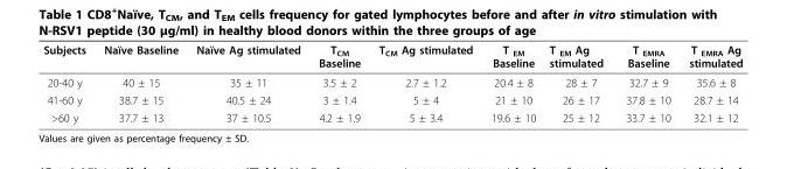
<table><thead><tr><td>Subjects</td><td>Naïve Baseline</td><td>Naïve Ag stimulated</td><td>T<sub>CM</sub> Baseline</td><td>T<sub>CM</sub> Ag stimulated</td><td>T <sub>EM</sub> Baseline</td><td>T <sub>EM</sub> Ag stimulated</td><td>T <sub>EMRA</sub> Baseline</td><td>T <sub>EMRA</sub> Ag stimulated</td></tr></thead><tbody><tr><td>20-40 y</td><td>40 ± 15</td><td>35 ± 11</td><td>3.5 ± 2</td><td>2.7 ± 1.2</td><td>20.4 ± 8</td><td>28 ± 7</td><td>32.7 ± 9</td><td>35.6 ± 8</td></tr><tr><td>41-60 y</td><td>38.7 ± 15</td><td>40.5 ± 24</td><td>3 ± 1.4</td><td>5 ± 4</td><td>21 ± 10</td><td>26 ± 17</td><td>37.8 ± 10</td><td>28.7 ± 14</td></tr><tr><td>&gt;60 y</td><td>37.7 ± 13</td><td>37 ± 10.5</td><td>4.2 ± 1.9</td><td>5 ± 3.4</td><td>19.6 ± 10</td><td>25 ± 12</td><td>33.7 ± 10</td><td>32.1 ± 12</td></tr></tbody></table>